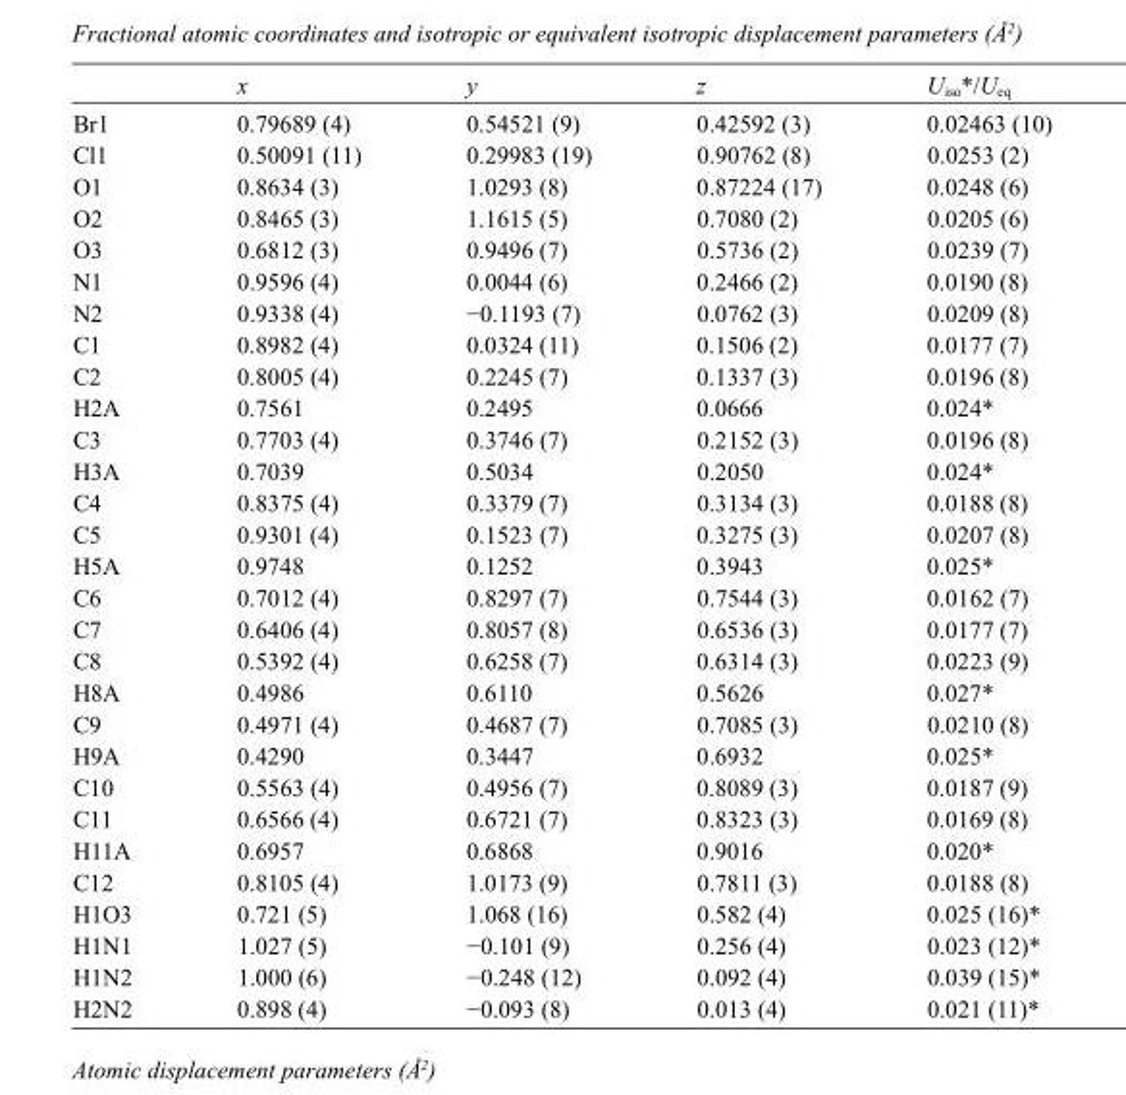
<table><thead><tr><td></td><td>x</td><td>y</td><td>z</td><td>U<sub>iso</sub>*/U<sub>eq</sub></td></tr></thead><tbody><tr><td>Br1</td><td>0.79689 (4)</td><td>0.54521 (9)</td><td>0.42592 (3)</td><td>0.02463 (10)</td></tr><tr><td>Cl1</td><td>0.50091 (11)</td><td>0.29983 (19)</td><td>0.90762 (8)</td><td>0.0253 (2)</td></tr><tr><td>O1</td><td>0.8634 (3)</td><td>1.0293 (8)</td><td>0.87224 (17)</td><td>0.0248 (6)</td></tr><tr><td>O2</td><td>0.8465 (3)</td><td>1.1615 (5)</td><td>0.7080 (2)</td><td>0.0205 (6)</td></tr><tr><td>O3</td><td>0.6812 (3)</td><td>0.9496 (7)</td><td>0.5736 (2)</td><td>0.0239 (7)</td></tr><tr><td>N1</td><td>0.9596 (4)</td><td>0.0044 (6)</td><td>0.2466 (2)</td><td>0.0190 (8)</td></tr><tr><td>N2</td><td>0.9338 (4)</td><td>−0.1193 (7)</td><td>0.0762 (3)</td><td>0.0209 (8)</td></tr><tr><td>C1</td><td>0.8982 (4)</td><td>0.0324 (11)</td><td>0.1506 (2)</td><td>0.0177 (7)</td></tr><tr><td>C2</td><td>0.8005 (4)</td><td>0.2245 (7)</td><td>0.1337 (3)</td><td>0.0196 (8)</td></tr><tr><td>H2A</td><td>0.7561</td><td>0.2495</td><td>0.0666</td><td>0.024*</td></tr><tr><td>C3</td><td>0.7703 (4)</td><td>0.3746 (7)</td><td>0.2152 (3)</td><td>0.0196 (8)</td></tr><tr><td>H3A</td><td>0.7039</td><td>0.5034</td><td>0.2050</td><td>0.024*</td></tr><tr><td>C4</td><td>0.8375 (4)</td><td>0.3379 (7)</td><td>0.3134 (3)</td><td>0.0188 (8)</td></tr><tr><td>C5</td><td>0.9301 (4)</td><td>0.1523 (7)</td><td>0.3275 (3)</td><td>0.0207 (8)</td></tr><tr><td>H5A</td><td>0.9748</td><td>0.1252</td><td>0.3943</td><td>0.025*</td></tr><tr><td>C6</td><td>0.7012 (4)</td><td>0.8297 (7)</td><td>0.7544 (3)</td><td>0.0162 (7)</td></tr><tr><td>C7</td><td>0.6406 (4)</td><td>0.8057 (8)</td><td>0.6536 (3)</td><td>0.0177 (7)</td></tr><tr><td>C8</td><td>0.5392 (4)</td><td>0.6258 (7)</td><td>0.6314 (3)</td><td>0.0223 (9)</td></tr><tr><td>H8A</td><td>0.4986</td><td>0.6110</td><td>0.5626</td><td>0.027*</td></tr><tr><td>C9</td><td>0.4971 (4)</td><td>0.4687 (7)</td><td>0.7085 (3)</td><td>0.0210 (8)</td></tr><tr><td>H9A</td><td>0.4290</td><td>0.3447</td><td>0.6932</td><td>0.025*</td></tr><tr><td>C10</td><td>0.5563 (4)</td><td>0.4956 (7)</td><td>0.8089 (3)</td><td>0.0187 (9)</td></tr><tr><td>C11</td><td>0.6566 (4)</td><td>0.6721 (7)</td><td>0.8323 (3)</td><td>0.0169 (8)</td></tr><tr><td>H11A</td><td>0.6957</td><td>0.6868</td><td>0.9016</td><td>0.020*</td></tr><tr><td>C12</td><td>0.8105 (4)</td><td>1.0173 (9)</td><td>0.7811 (3)</td><td>0.0188 (8)</td></tr><tr><td>H1O3</td><td>0.721 (5)</td><td>1.068 (16)</td><td>0.582 (4)</td><td>0.025 (16)*</td></tr><tr><td>H1N1</td><td>1.027 (5)</td><td>−0.101 (9)</td><td>0.256 (4)</td><td>0.023 (12)*</td></tr><tr><td>H1N2</td><td>1.000 (6)</td><td>−0.248 (12)</td><td>0.092 (4)</td><td>0.039 (15)*</td></tr><tr><td>H2N2</td><td>0.898 (4)</td><td>−0.093 (8)</td><td>0.013 (4)</td><td>0.021 (11)*</td></tr></tbody></table>